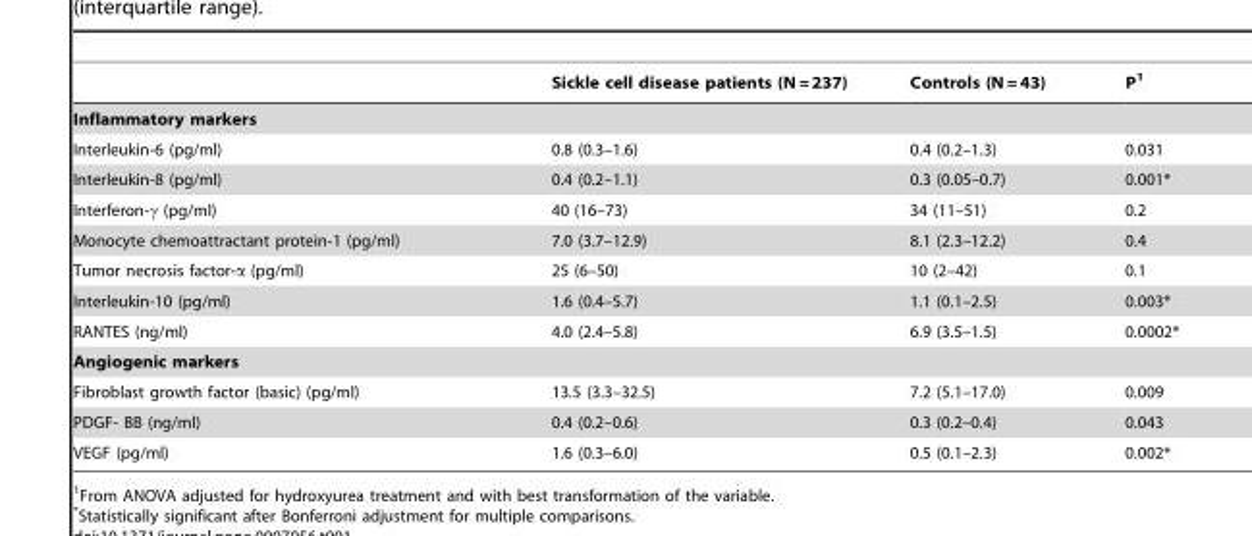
<table><thead><tr><td></td><td>Sickle cell disease patients (N = 237)</td><td>Controls (N = 43)</td><td>P<sup>1</sup></td></tr></thead><tbody><tr><td colspan="4">Inflammatory markers</td></tr><tr><td>Interleukin-6 (pg/ml)</td><td>0.8 (0.3–1.6)</td><td>0.4 (0.2–1.3)</td><td>0.031</td></tr><tr><td>Interleukin-8 (pg/ml)</td><td>0.4 (0.2–1.1)</td><td>0.3 (0.05–0.7)</td><td>0.001*</td></tr><tr><td>Interferon-γ (pg/ml)</td><td>40 (16–73)</td><td>34 (11–51)</td><td>0.2</td></tr><tr><td>Monocyte chemoattractant protein-1 (pg/ml)</td><td>7.0 (3.7–12.9)</td><td>8.1 (2.3–12.2)</td><td>0.4</td></tr><tr><td>Tumor necrosis factor-α (pg/ml)</td><td>25 (6–50)</td><td>10 (2–42)</td><td>0.1</td></tr><tr><td>Interleukin-10 (pg/ml)</td><td>1.6 (0.4–5.7)</td><td>1.1 (0.1–2.5)</td><td>0.003*</td></tr><tr><td>RANTES (ng/ml)</td><td>4.0 (2.4–5.8)</td><td>6.9 (3.5–1.5)</td><td>0.0002*</td></tr><tr><td colspan="4">Angiogenic markers</td></tr><tr><td>Fibroblast growth factor (basic) (pg/ml)</td><td>13.5 (3.3–32.5)</td><td>7.2 (5.1–17.0)</td><td>0.009</td></tr><tr><td>PDGF- BB (ng/ml)</td><td>0.4 (0.2–0.6)</td><td>0.3 (0.2–0.4)</td><td>0.043</td></tr><tr><td>VEGF (pg/ml)</td><td>1.6 (0.3–6.0)</td><td>0.5 (0.1–2.3)</td><td>0.002*</td></tr></tbody></table>